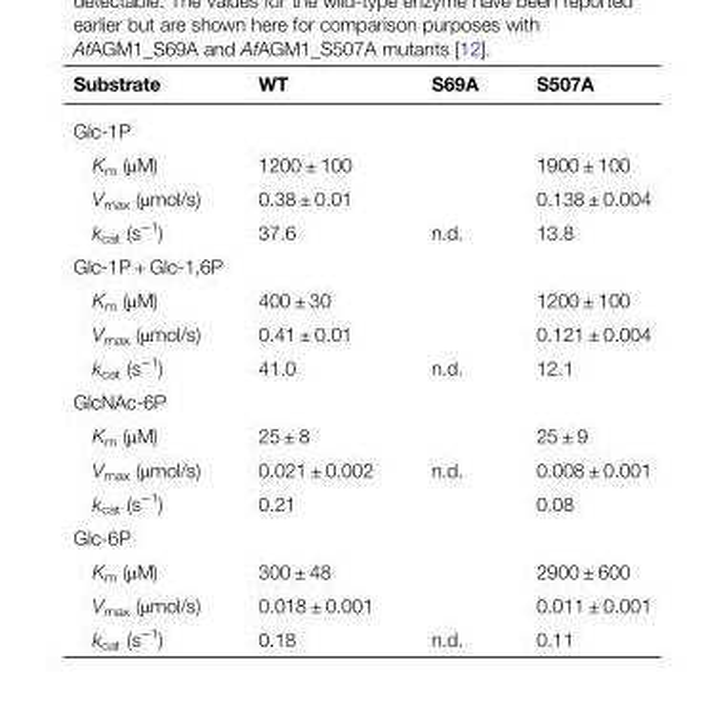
<table><thead><tr><td>Substrate</td><td>WT</td><td>S69A</td><td>S507A</td></tr></thead><tbody><tr><td colspan="4">Glc-1P</td></tr><tr><td>K<sub>m</sub> (μM)</td><td>1200 ± 100</td><td></td><td>1900 ± 100</td></tr><tr><td>V<sub>max</sub> (μmol/s)</td><td>0.38 ± 0.01</td><td></td><td>0.138 ± 0.004</td></tr><tr><td>k<sub>cat</sub> (s<sup>−1</sup>)</td><td>37.6</td><td>n.d.</td><td>13.8</td></tr><tr><td colspan="4">Glc-1P + Glc-1,6P</td></tr><tr><td>K<sub>m</sub> (μM)</td><td>400 ± 30</td><td></td><td>1200 ± 100</td></tr><tr><td>V<sub>max</sub> (μmol/s)</td><td>0.41 ± 0.01</td><td></td><td>0.121 ± 0.004</td></tr><tr><td>k<sub>cat</sub> (s<sup>−1</sup>)</td><td>41.0</td><td>n.d.</td><td>12.1</td></tr><tr><td colspan="4">GlcNAc-6P</td></tr><tr><td>K<sub>m</sub> (μM)</td><td>25 ± 8</td><td></td><td>25 ± 9</td></tr><tr><td>V<sub>max</sub> (μmol/s)</td><td>0.021 ± 0.002</td><td>n.d.</td><td>0.008 ± 0.001</td></tr><tr><td>k<sub>cat</sub> (s<sup>−1</sup>)</td><td>0.21</td><td></td><td>0.08</td></tr><tr><td colspan="4">Glc-6P</td></tr><tr><td>K<sub>m</sub> (μM)</td><td>300 ± 48</td><td></td><td>2900 ± 600</td></tr><tr><td>V<sub>max</sub> (μmol/s)</td><td>0.018 ± 0.001</td><td></td><td>0.011 ± 0.001</td></tr><tr><td>k<sub>cat</sub> (s<sup>−1</sup>)</td><td>0.18</td><td>n.d.</td><td>0.11</td></tr></tbody></table>